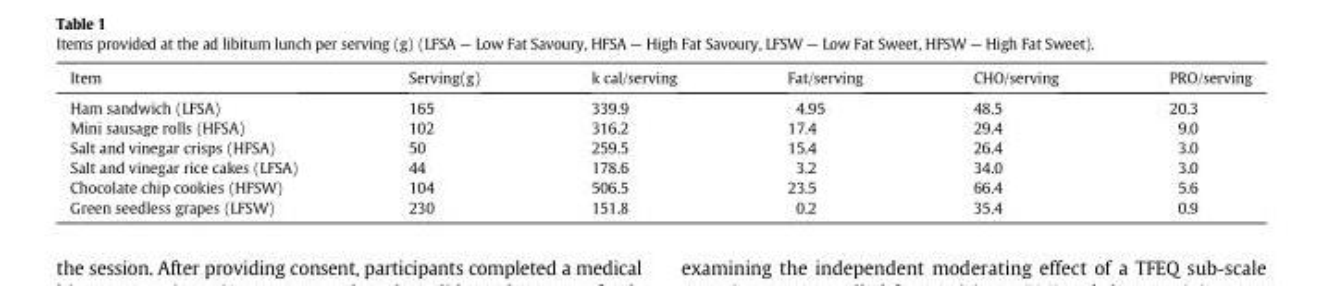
<table><thead><tr><td>Item</td><td>Serving(g)</td><td>k cal/serving</td><td>Fat/serving</td><td>CHO/serving</td><td>PRO/serving</td></tr></thead><tbody><tr><td>Ham sandwich (LFSA)</td><td>165</td><td>339.9</td><td>4.95</td><td>48.5</td><td>20.3</td></tr><tr><td>Mini sausage rolls (HFSA)</td><td>102</td><td>316.2</td><td>17.4</td><td>29.4</td><td>9.0</td></tr><tr><td>Salt and vinegar crisps (HFSA)</td><td>50</td><td>259.5</td><td>15.4</td><td>26.4</td><td>3.0</td></tr><tr><td>Salt and vinegar rice cakes (LFSA)</td><td>44</td><td>178.6</td><td>3.2</td><td>34.0</td><td>3.0</td></tr><tr><td>Chocolate chip cookies (HFSW)</td><td>104</td><td>506.5</td><td>23.5</td><td>66.4</td><td>5.6</td></tr><tr><td>Green seedless grapes (LFSW)</td><td>230</td><td>151.8</td><td>0.2</td><td>35.4</td><td>0.9</td></tr></tbody></table>